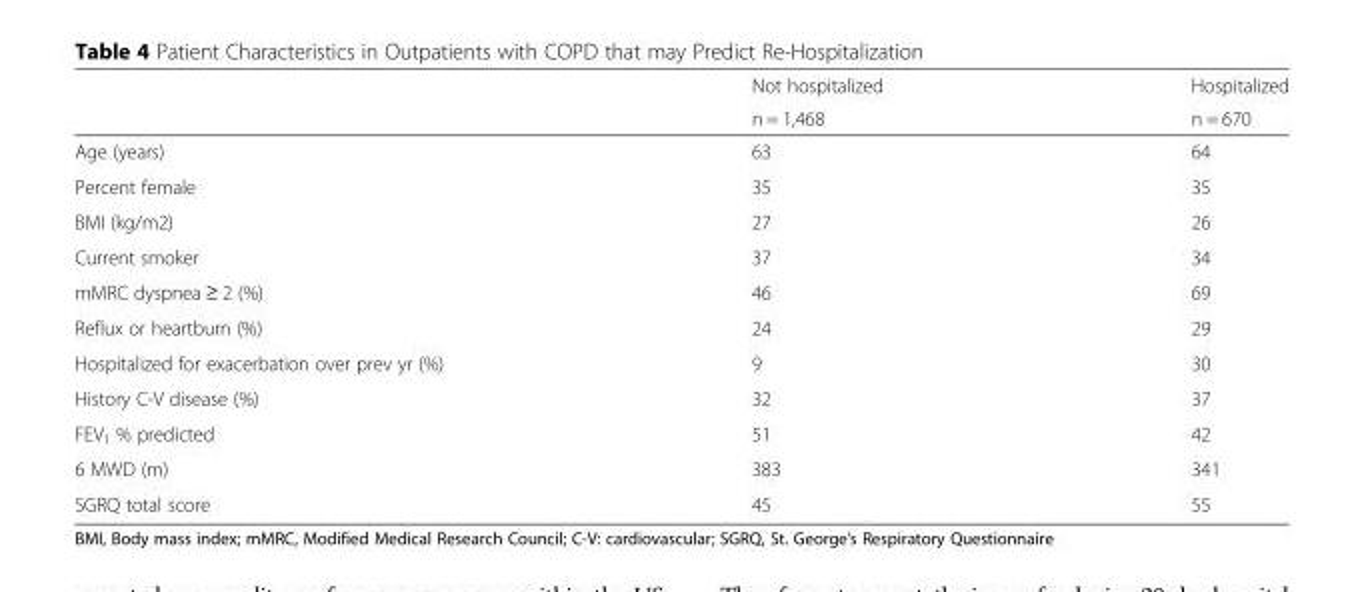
<table><thead><tr><td rowspan="2"></td><td rowspan="2">Not hospitalized n = 1,468</td><td rowspan="2">Hospitalized n = 670</td></tr><tr></tr></thead><tbody><tr><td>Age (years)</td><td>63</td><td>64</td></tr><tr><td>Percent female</td><td>35</td><td>35</td></tr><tr><td>BMI (kg/m2)</td><td>27</td><td>26</td></tr><tr><td>Current smoker</td><td>37</td><td>34</td></tr><tr><td>mMRC dyspnea ≥ 2 (%)</td><td>46</td><td>69</td></tr><tr><td>Reflux or heartburn (%)</td><td>24</td><td>29</td></tr><tr><td>Hospitalized for exacerbation over prev yr (%)</td><td>9</td><td>30</td></tr><tr><td>History C-V disease (%)</td><td>32</td><td>37</td></tr><tr><td>FEV<sub>1</sub> % predicted</td><td>51</td><td>42</td></tr><tr><td>6 MWD (m)</td><td>383</td><td>341</td></tr><tr><td>SGRQ total score</td><td>45</td><td>55</td></tr></tbody></table>